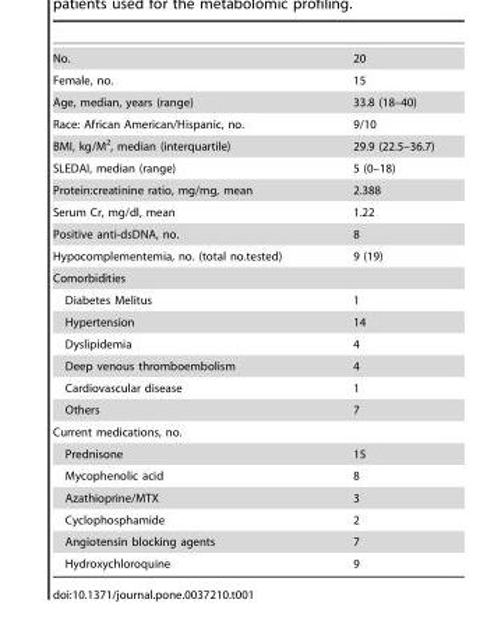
<table><tbody><tr><td>No.</td><td>20</td></tr><tr><td>Female, no.</td><td>15</td></tr><tr><td>Age, median, years (range)</td><td>33.8 (18–40)</td></tr><tr><td>Race: African American/Hispanic, no.</td><td>9/10</td></tr><tr><td>BMI, kg/M<sup>2</sup>, median (interquartile)</td><td>29.9 (22.5–36.7)</td></tr><tr><td>SLEDAI, median (range)</td><td>5 (0–18)</td></tr><tr><td>Protein:creatinine ratio, mg/mg, mean</td><td>2.388</td></tr><tr><td>Serum Cr, mg/dl, mean</td><td>1.22</td></tr><tr><td>Positive anti-dsDNA, no.</td><td>8</td></tr><tr><td>Hypocomplementemia, no. (total no.tested)</td><td>9 (19)</td></tr><tr><td colspan="2">Comorbidities</td></tr><tr><td>Diabetes Melitus</td><td>1</td></tr><tr><td>Hypertension</td><td>14</td></tr><tr><td>Dyslipidemia</td><td>4</td></tr><tr><td>Deep venous thromboembolism</td><td>4</td></tr><tr><td>Cardiovascular disease</td><td>1</td></tr><tr><td>Others</td><td>7</td></tr><tr><td colspan="2">Current medications, no.</td></tr><tr><td>Prednisone</td><td>15</td></tr><tr><td>Mycophenolic acid</td><td>8</td></tr><tr><td>Azathioprine/MTX</td><td>3</td></tr><tr><td>Cyclophosphamide</td><td>2</td></tr><tr><td>Angiotensin blocking agents</td><td>7</td></tr><tr><td>Hydroxychloroquine</td><td>9</td></tr></tbody></table>